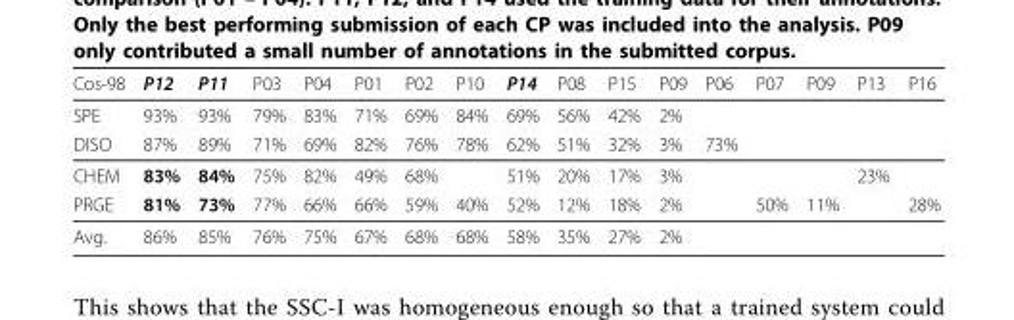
<table><thead><tr><td>Cos-98</td><td>P12</td><td>P11</td><td>P03</td><td>P04</td><td>P01</td><td>P02</td><td>P10</td><td>P14</td><td>P08</td><td>P15</td><td>P09</td><td>P06</td><td>P07</td><td>P09</td><td>P13</td><td>P16</td></tr></thead><tbody><tr><td>SPE</td><td>93%</td><td>93%</td><td>79%</td><td>83%</td><td>71%</td><td>69%</td><td>84%</td><td>69%</td><td>56%</td><td>42%</td><td>2%</td><td></td><td></td><td></td><td></td><td></td></tr><tr><td>DISO</td><td>87%</td><td>89%</td><td>71%</td><td>69%</td><td>82%</td><td>76%</td><td>78%</td><td>62%</td><td>51%</td><td>32%</td><td>3%</td><td>73%</td><td></td><td></td><td></td><td></td></tr><tr><td>CHEM</td><td>83%</td><td>84%</td><td>75%</td><td>82%</td><td>49%</td><td>68%</td><td></td><td>51%</td><td>20%</td><td>17%</td><td>3%</td><td></td><td></td><td></td><td>23%</td><td></td></tr><tr><td>PRGE</td><td>81%</td><td>73%</td><td>77%</td><td>66%</td><td>66%</td><td>59%</td><td>40%</td><td>52%</td><td>12%</td><td>18%</td><td>2%</td><td></td><td>50%</td><td>11%</td><td></td><td>28%</td></tr><tr><td>Avg.</td><td>86%</td><td>85%</td><td>76%</td><td>75%</td><td>67%</td><td>68%</td><td>68%</td><td>58%</td><td>35%</td><td>27%</td><td>2%</td><td></td><td></td><td></td><td></td><td></td></tr></tbody></table>